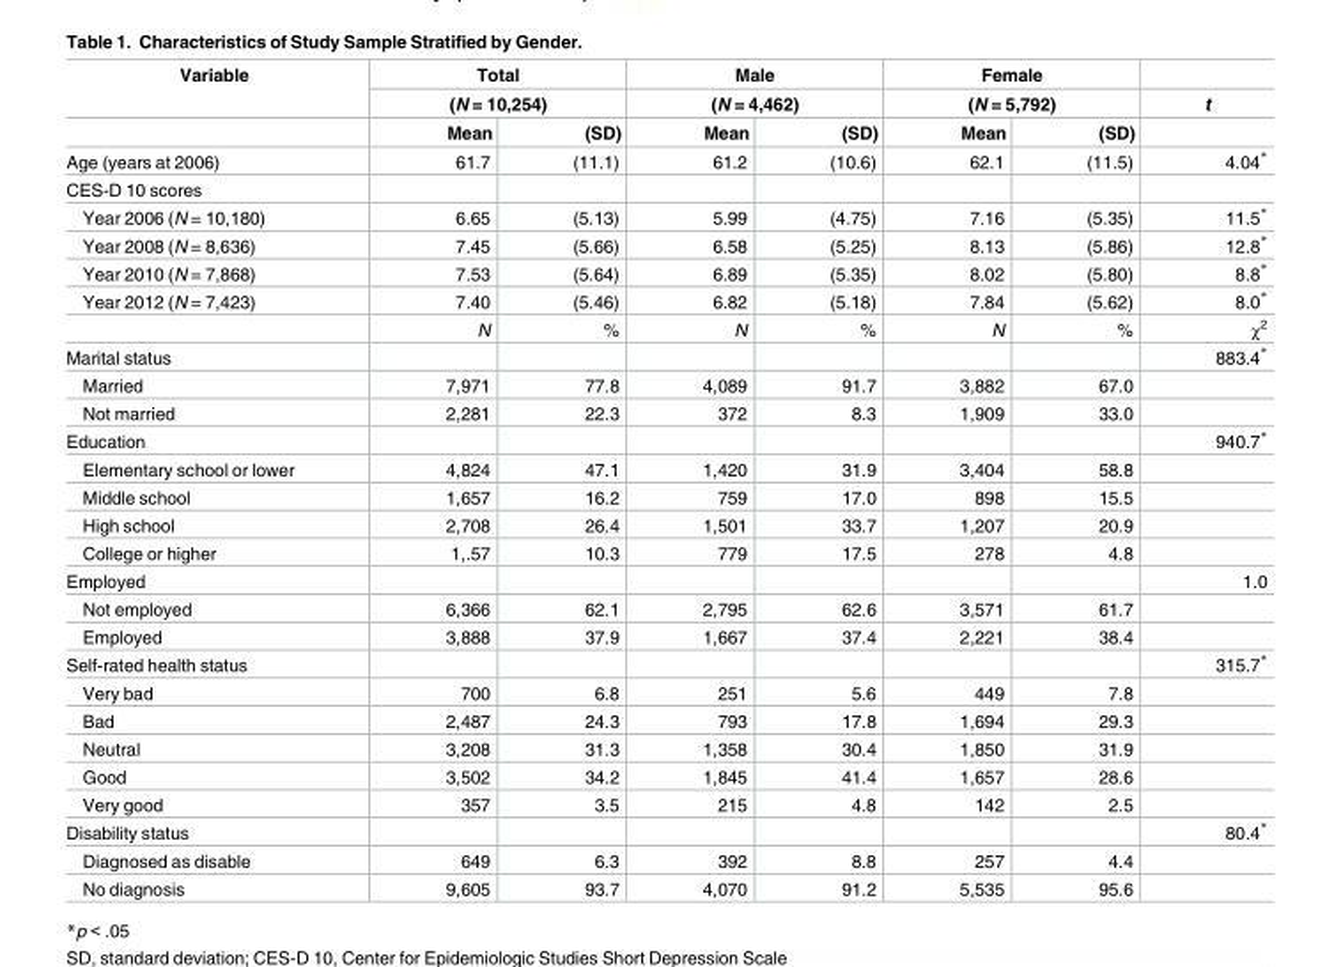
<table><thead><tr><td rowspan="3">Variable</td><td rowspan="2" colspan="2">Total (N = 10,254)</td><td rowspan="2" colspan="2">Male (N = 4,462)</td><td rowspan="2" colspan="2">Female (N = 5,792)</td><td rowspan="3">t</td></tr><tr></tr><tr><td>Mean</td><td>(SD)</td><td>Mean</td><td>(SD)</td><td>Mean</td><td>(SD)</td></tr></thead><tbody><tr><td>Age (years at 2006)</td><td>61.7</td><td>(11.1)</td><td>61.2</td><td>(10.6)</td><td>62.1</td><td>(11.5)</td><td>4.04*</td></tr><tr><td colspan="8">CES-D 10 scores</td></tr><tr><td>Year 2006 (N = 10,180)</td><td>6.65</td><td>(5.13)</td><td>5.99</td><td>(4.75)</td><td>7.16</td><td>(5.35)</td><td>11.5*</td></tr><tr><td>Year 2008 (N = 8,636)</td><td>7.45</td><td>(5.66)</td><td>6.58</td><td>(5.25)</td><td>8.13</td><td>(5.86)</td><td>12.8*</td></tr><tr><td>Year 2010 (N = 7,868)</td><td>7.53</td><td>(5.64)</td><td>6.89</td><td>(5.35)</td><td>8.02</td><td>(5.80)</td><td>8.8*</td></tr><tr><td rowspan="2">Year 2012 (N = 7,423)</td><td>7.40</td><td>(5.46)</td><td>6.82</td><td>(5.18)</td><td>7.84</td><td>(5.62)</td><td>8.0*</td></tr><tr><td>N</td><td>%</td><td>N</td><td>%</td><td>N</td><td>%</td><td>χ<sup>2</sup></td></tr><tr><td>Marital status</td><td></td><td></td><td></td><td></td><td></td><td></td><td>883.4*</td></tr><tr><td>Married</td><td>7,971</td><td>77.8</td><td>4,089</td><td>91.7</td><td>3,882</td><td>67.0</td><td></td></tr><tr><td>Not married</td><td>2,281</td><td>22.3</td><td>372</td><td>8.3</td><td>1,909</td><td>33.0</td><td></td></tr><tr><td>Education</td><td></td><td></td><td></td><td></td><td></td><td></td><td>940.7*</td></tr><tr><td>Elementary school or lower</td><td>4,824</td><td>47.1</td><td>1,420</td><td>31.9</td><td>3,404</td><td>58.8</td><td></td></tr><tr><td>Middle school</td><td>1,657</td><td>16.2</td><td>759</td><td>17.0</td><td>898</td><td>15.5</td><td></td></tr><tr><td>High school</td><td>2,708</td><td>26.4</td><td>1,501</td><td>33.7</td><td>1,207</td><td>20.9</td><td></td></tr><tr><td>College or higher</td><td>1,.57</td><td>10.3</td><td>779</td><td>17.5</td><td>278</td><td>4.8</td><td></td></tr><tr><td>Employed</td><td></td><td></td><td></td><td></td><td></td><td></td><td>1.0</td></tr><tr><td>Not employed</td><td>6,366</td><td>62.1</td><td>2,795</td><td>62.6</td><td>3,571</td><td>61.7</td><td></td></tr><tr><td>Employed</td><td>3,888</td><td>37.9</td><td>1,667</td><td>37.4</td><td>2,221</td><td>38.4</td><td></td></tr><tr><td>Self-rated health status</td><td></td><td></td><td></td><td></td><td></td><td></td><td>315.7*</td></tr><tr><td>Very bad</td><td>700</td><td>6.8</td><td>251</td><td>5.6</td><td>449</td><td>7.8</td><td></td></tr><tr><td>Bad</td><td>2,487</td><td>24.3</td><td>793</td><td>17.8</td><td>1,694</td><td>29.3</td><td></td></tr><tr><td>Neutral</td><td>3,208</td><td>31.3</td><td>1,358</td><td>30.4</td><td>1,850</td><td>31.9</td><td></td></tr><tr><td>Good</td><td>3,502</td><td>34.2</td><td>1,845</td><td>41.4</td><td>1,657</td><td>28.6</td><td></td></tr><tr><td>Very good</td><td>357</td><td>3.5</td><td>215</td><td>4.8</td><td>142</td><td>2.5</td><td></td></tr><tr><td>Disability status</td><td></td><td></td><td></td><td></td><td></td><td></td><td>80.4*</td></tr><tr><td>Diagnosed as disable</td><td>649</td><td>6.3</td><td>392</td><td>8.8</td><td>257</td><td>4.4</td><td></td></tr><tr><td>No diagnosis</td><td>9,605</td><td>93.7</td><td>4,070</td><td>91.2</td><td>5,535</td><td>95.6</td><td></td></tr></tbody></table>